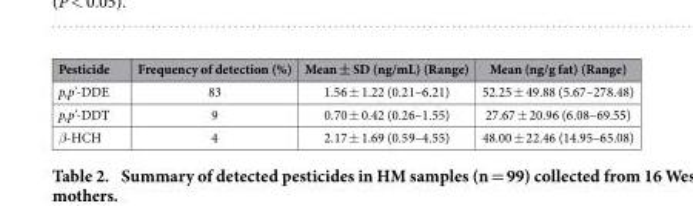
<table><thead><tr><td>Pesticide</td><td>Frequency of detection (%)</td><td>Mean ± SD (ng/mL) (Range)</td><td>Mean (ng/g fat) (Range)</td></tr></thead><tbody><tr><td>p,p’-DDE</td><td>83</td><td>1.56 ± 1.22 (0.21–6.21)</td><td>52.25 ± 49.88 (5.67–278.48)</td></tr><tr><td>p,p’-DDT</td><td>9</td><td>0.70 ± 0.42 (0.26–1.55)</td><td>27.67 ± 20.96 (6.08–69.55)</td></tr><tr><td>β-HCH</td><td>4</td><td>2.17 ± 1.69 (0.59–4.55)</td><td>48.00 ± 22.46 (14.95–65.08)</td></tr></tbody></table>